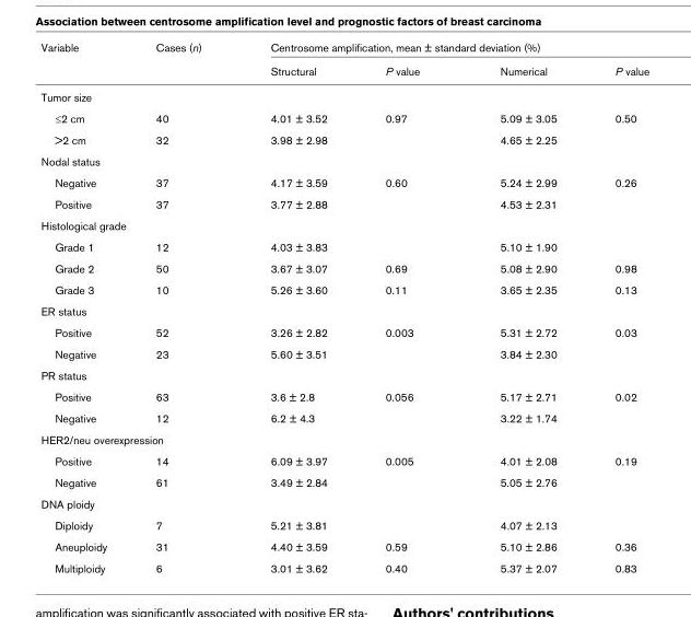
<table><thead><tr><td rowspan="2">Variable</td><td rowspan="2">Cases (n)</td><td colspan="4">Centrosome amplification, mean ± standard deviation (%)</td></tr><tr><td>Structural</td><td>P value</td><td>Numerical</td><td>P value</td></tr></thead><tbody><tr><td colspan="6">Tumor size</td></tr><tr><td>≤2 cm</td><td>40</td><td>4.01 ± 3.52</td><td>0.97</td><td>5.09 ± 3.05</td><td>0.50</td></tr><tr><td>&gt;2 cm</td><td>32</td><td>3.98 ± 2.98</td><td></td><td>4.65 ± 2.25</td><td></td></tr><tr><td colspan="6">Nodal status</td></tr><tr><td>Negative</td><td>37</td><td>4.17 ± 3.59</td><td>0.60</td><td>5.24 ± 2.99</td><td>0.26</td></tr><tr><td>Positive</td><td>37</td><td>3.77 ± 2.88</td><td></td><td>4.53 ± 2.31</td><td></td></tr><tr><td colspan="6">Histological grade</td></tr><tr><td>Grade 1</td><td>12</td><td>4.03 ± 3.83</td><td></td><td>5.10 ± 1.90</td><td></td></tr><tr><td>Grade 2</td><td>50</td><td>3.67 ± 3.07</td><td>0.69</td><td>5.08 ± 2.90</td><td>0.98</td></tr><tr><td>Grade 3</td><td>10</td><td>5.26 ± 3.60</td><td>0.11</td><td>3.65 ± 2.35</td><td>0.13</td></tr><tr><td colspan="6">ER status</td></tr><tr><td>Positive</td><td>52</td><td>3.26 ± 2.82</td><td>0.003</td><td>5.31 ± 2.72</td><td>0.03</td></tr><tr><td>Negative</td><td>23</td><td>5.60 ± 3.51</td><td></td><td>3.84 ± 2.30</td><td></td></tr><tr><td colspan="6">PR status</td></tr><tr><td>Positive</td><td>63</td><td>3.6 ± 2.8</td><td>0.056</td><td>5.17 ± 2.71</td><td>0.02</td></tr><tr><td>Negative</td><td>12</td><td>6.2 ± 4.3</td><td></td><td>3.22 ± 1.74</td><td></td></tr><tr><td colspan="6">HER2/neu overexpression</td></tr><tr><td>Positive</td><td>14</td><td>6.09 ± 3.97</td><td>0.005</td><td>4.01 ± 2.08</td><td>0.19</td></tr><tr><td>Negative</td><td>61</td><td>3.49 ± 2.84</td><td></td><td>5.05 ± 2.76</td><td></td></tr><tr><td colspan="6">DNA ploidy</td></tr><tr><td>Diploidy</td><td>7</td><td>5.21 ± 3.81</td><td></td><td>4.07 ± 2.13</td><td></td></tr><tr><td>Aneuploidy</td><td>31</td><td>4.40 ± 3.59</td><td>0.59</td><td>5.10 ± 2.86</td><td>0.36</td></tr><tr><td>Multiploidy</td><td>6</td><td>3.01 ± 3.62</td><td>0.40</td><td>5.37 ± 2.07</td><td>0.83</td></tr></tbody></table>